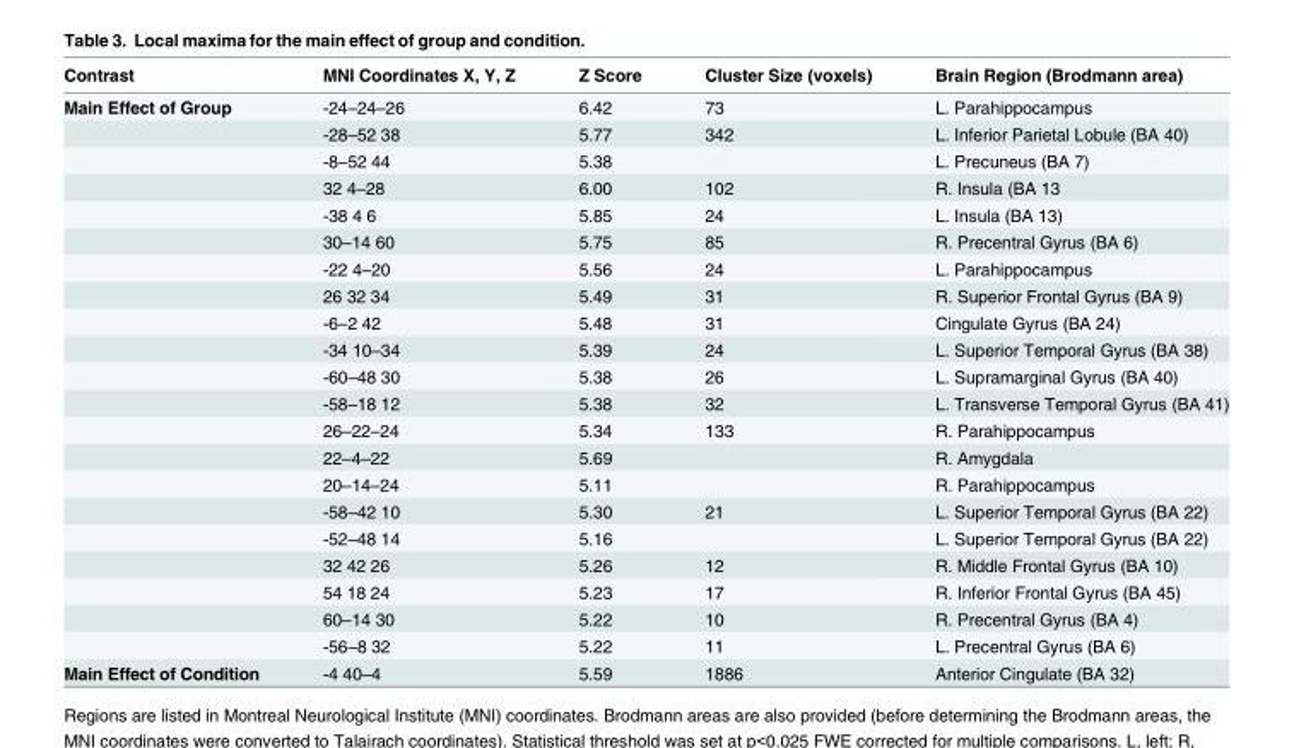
<table><thead><tr><td>Contrast</td><td>MNI Coordinates X, Y, Z</td><td>Z Score</td><td>Cluster Size (voxels)</td><td>Brain Region (Brodmann area)</td></tr></thead><tbody><tr><td rowspan="21">Main Effect of Group</td><td>-24–24–26</td><td>6.42</td><td>73</td><td>L. Parahippocampus</td></tr><tr><td>-28–52 38</td><td>5.77</td><td>342</td><td>L. Inferior Parietal Lobule (BA 40)</td></tr><tr><td>-8–52 44</td><td>5.38</td><td></td><td>L. Precuneus (BA 7)</td></tr><tr><td>32 4–28</td><td>6.00</td><td>102</td><td>R. Insula (BA 13</td></tr><tr><td>-38 4 6</td><td>5.85</td><td>24</td><td>L. Insula (BA 13)</td></tr><tr><td>30–14 60</td><td>5.75</td><td>85</td><td>R. Precentral Gyrus (BA 6)</td></tr><tr><td>-22 4–20</td><td>5.56</td><td>24</td><td>L. Parahippocampus</td></tr><tr><td>26 32 34</td><td>5.49</td><td>31</td><td>R. Superior Frontal Gyrus (BA 9)</td></tr><tr><td>-6–2 42</td><td>5.48</td><td>31</td><td>Cingulate Gyrus (BA 24)</td></tr><tr><td>-34 10–34</td><td>5.39</td><td>24</td><td>L. Superior Temporal Gyrus (BA 38)</td></tr><tr><td>-60–48 30</td><td>5.38</td><td>26</td><td>L. Supramarginal Gyrus (BA 40)</td></tr><tr><td>-58–18 12</td><td>5.38</td><td>32</td><td>L. Transverse Temporal Gyrus (BA 41)</td></tr><tr><td>26–22–24</td><td>5.34</td><td>133</td><td>R. Parahippocampus</td></tr><tr><td>22–4–22</td><td>5.69</td><td></td><td>R. Amygdala</td></tr><tr><td>20–14–24</td><td>5.11</td><td></td><td>R. Parahippocampus</td></tr><tr><td>-58–42 10</td><td>5.30</td><td>21</td><td>L. Superior Temporal Gyrus (BA 22)</td></tr><tr><td>-52–48 14</td><td>5.16</td><td></td><td>L. Superior Temporal Gyrus (BA 22)</td></tr><tr><td>32 42 26</td><td>5.26</td><td>12</td><td>R. Middle Frontal Gyrus (BA 10)</td></tr><tr><td>54 18 24</td><td>5.23</td><td>17</td><td>R. Inferior Frontal Gyrus (BA 45)</td></tr><tr><td>60–14 30</td><td>5.22</td><td>10</td><td>R. Precentral Gyrus (BA 4)</td></tr><tr><td>-56–8 32</td><td>5.22</td><td>11</td><td>L. Precentral Gyrus (BA 6)</td></tr><tr><td>Main Effect of Condition</td><td>-4 40–4</td><td>5.59</td><td>1886</td><td>Anterior Cingulate (BA 32)</td></tr></tbody></table>